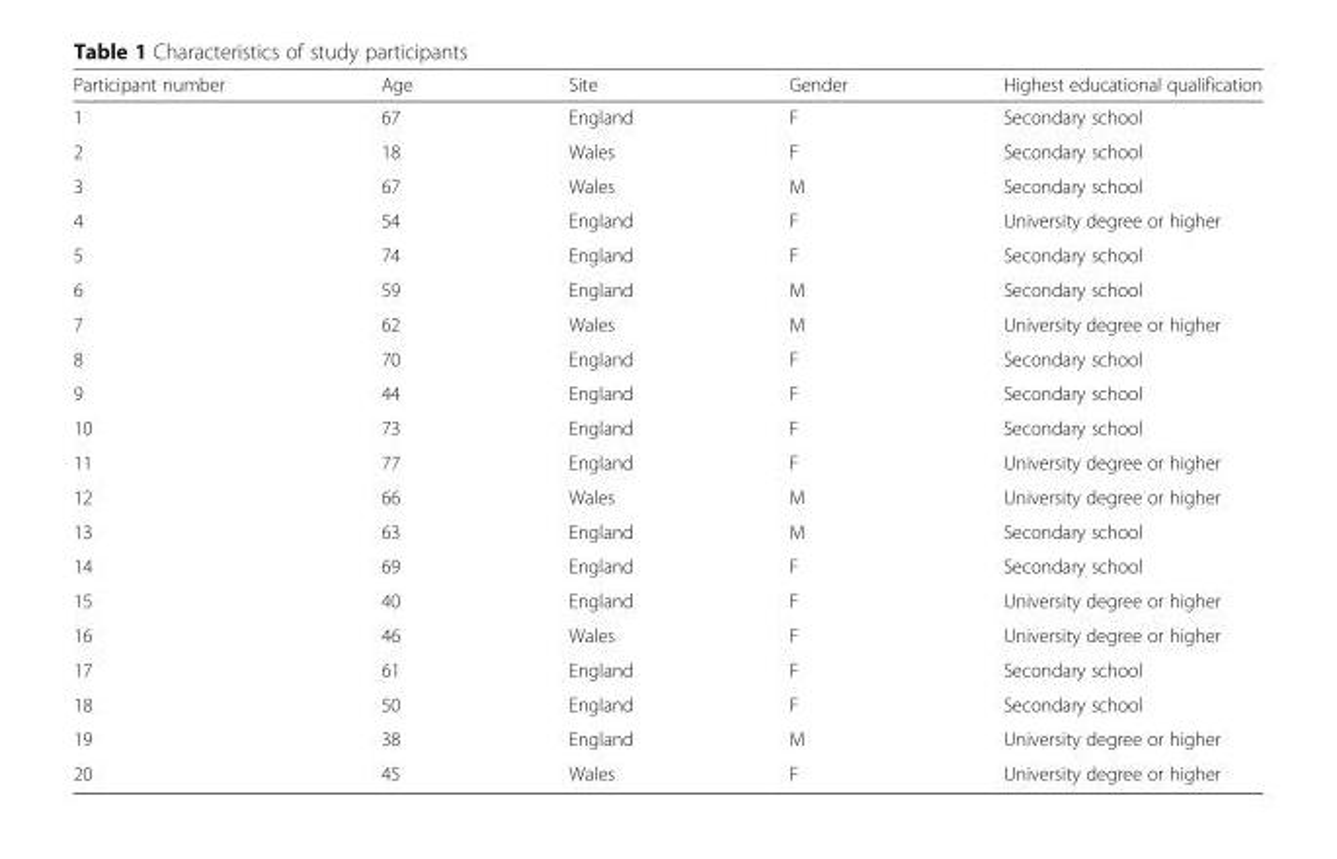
<table><thead><tr><td>Participant number</td><td>Age</td><td>Site</td><td>Gender</td><td>Highest educational qualification</td></tr></thead><tbody><tr><td>1</td><td>67</td><td>England</td><td>F</td><td>Secondary school</td></tr><tr><td>2</td><td>18</td><td>Wales</td><td>F</td><td>Secondary school</td></tr><tr><td>3</td><td>67</td><td>Wales</td><td>M</td><td>Secondary school</td></tr><tr><td>4</td><td>54</td><td>England</td><td>F</td><td>University degree or higher</td></tr><tr><td>5</td><td>74</td><td>England</td><td>F</td><td>Secondary school</td></tr><tr><td>6</td><td>59</td><td>England</td><td>M</td><td>Secondary school</td></tr><tr><td>7</td><td>62</td><td>Wales</td><td>M</td><td>University degree or higher</td></tr><tr><td>8</td><td>70</td><td>England</td><td>F</td><td>Secondary school</td></tr><tr><td>9</td><td>44</td><td>England</td><td>F</td><td>Secondary school</td></tr><tr><td>10</td><td>73</td><td>England</td><td>F</td><td>Secondary school</td></tr><tr><td>11</td><td>77</td><td>England</td><td>F</td><td>University degree or higher</td></tr><tr><td>12</td><td>66</td><td>Wales</td><td>M</td><td>University degree or higher</td></tr><tr><td>13</td><td>63</td><td>England</td><td>M</td><td>Secondary school</td></tr><tr><td>14</td><td>69</td><td>England</td><td>F</td><td>Secondary school</td></tr><tr><td>15</td><td>40</td><td>England</td><td>F</td><td>University degree or higher</td></tr><tr><td>16</td><td>46</td><td>Wales</td><td>F</td><td>University degree or higher</td></tr><tr><td>17</td><td>61</td><td>England</td><td>F</td><td>Secondary school</td></tr><tr><td>18</td><td>50</td><td>England</td><td>F</td><td>Secondary school</td></tr><tr><td>19</td><td>38</td><td>England</td><td>M</td><td>University degree or higher</td></tr><tr><td>20</td><td>45</td><td>Wales</td><td>F</td><td>University degree or higher</td></tr></tbody></table>